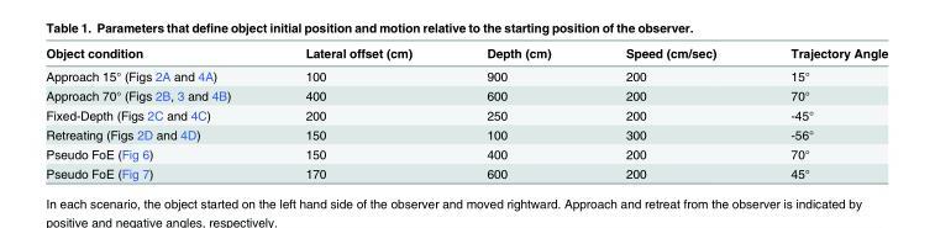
<table><thead><tr><td>Object condition</td><td>Lateral offset (cm)</td><td>Depth (cm)</td><td>Speed (cm/sec)</td><td>Trajectory Angle</td></tr></thead><tbody><tr><td>Approach 15° (Figs 2A and 4A)</td><td>100</td><td>900</td><td>200</td><td>15°</td></tr><tr><td>Approach 70° (Figs 2B, 3 and 4B)</td><td>400</td><td>600</td><td>200</td><td>70°</td></tr><tr><td>Fixed-Depth (Figs 2C and 4C)</td><td>200</td><td>250</td><td>200</td><td>-45°</td></tr><tr><td>Retreating (Figs 2D and 4D)</td><td>150</td><td>100</td><td>300</td><td>-56°</td></tr><tr><td>Pseudo FoE (Fig 6)</td><td>150</td><td>400</td><td>200</td><td>70°</td></tr><tr><td>Pseudo FoE (Fig 7)</td><td>170</td><td>600</td><td>200</td><td>45°</td></tr></tbody></table>